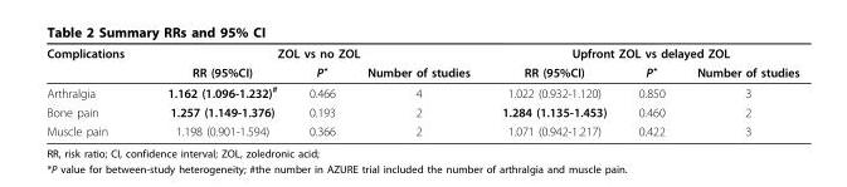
<table><thead><tr><td rowspan="2">Complications</td><td colspan="3">ZOL vs no ZOL</td><td colspan="3">Upfront ZOL vs delayed ZOL</td></tr><tr><td>RR (95%CI)</td><td>P<sup>⋆</sup></td><td>Number of studies</td><td>RR (95%CI)</td><td>P<sup>⋆</sup></td><td>Number of studies</td></tr></thead><tbody><tr><td>Arthralgia</td><td>1.162 (1.096-1.232)<sup>#</sup></td><td>0.466</td><td>4</td><td>1.022 (0.932-1.120)</td><td>0.850</td><td>3</td></tr><tr><td>Bone pain</td><td>1.257 (1.149-1.376)</td><td>0.193</td><td>2</td><td>1.284 (1.135-1.453)</td><td>0.460</td><td>2</td></tr><tr><td>Muscle pain</td><td>1.198 (0.901-1.594)</td><td>0.366</td><td>2</td><td>1.071 (0.942-1.217)</td><td>0.422</td><td>3</td></tr></tbody></table>